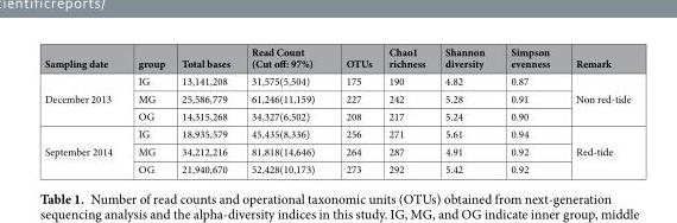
<table><thead><tr><td>Sampling date</td><td>group</td><td>Total bases</td><td>Read Count (Cut off: 97%)</td><td>OTUs</td><td>Chao1 richness</td><td>Shannon diversity</td><td>Simpson evenness</td><td>Remark</td></tr></thead><tbody><tr><td rowspan="3">December 2013</td><td>IG</td><td>13,141,208</td><td>31,575(5,504)</td><td>175</td><td>190</td><td>4.82</td><td>0.87</td><td rowspan="3">Non red-tide</td></tr><tr><td>MG</td><td>25,586,779</td><td>61,246(11,159)</td><td>227</td><td>242</td><td>5.28</td><td>0.91</td></tr><tr><td>OG</td><td>14,315,268</td><td>34,327(6,502)</td><td>208</td><td>217</td><td>5.24</td><td>0.90</td></tr><tr><td rowspan="3">September 2014</td><td>IG</td><td>18,935,579</td><td>45,435(8,336)</td><td>256</td><td>271</td><td>5.61</td><td>0.94</td><td rowspan="3">Red-tide</td></tr><tr><td>MG</td><td>34,212,216</td><td>81,818(14,646)</td><td>264</td><td>287</td><td>4.91</td><td>0.92</td></tr><tr><td>OG</td><td>21,940,670</td><td>52,428(10,173)</td><td>273</td><td>292</td><td>5.42</td><td>0.92</td></tr></tbody></table>